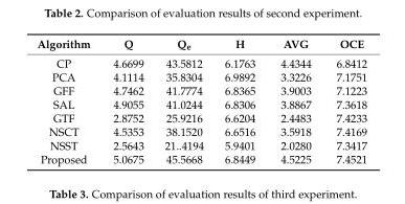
<table><thead><tr><td>Algorithm</td><td>Q</td><td>Q<sub>e</sub></td><td>H</td><td>AVG</td><td>OCE</td></tr></thead><tbody><tr><td>CP</td><td>4.6699</td><td>43.5812</td><td>6.1763</td><td>4.4344</td><td>6.8412</td></tr><tr><td>PCA</td><td>4.1114</td><td>35.8304</td><td>6.9892</td><td>3.3226</td><td>7.1751</td></tr><tr><td>GFF</td><td>4.7462</td><td>41.7774</td><td>6.8365</td><td>3.9003</td><td>7.1223</td></tr><tr><td>SAL</td><td>4.9055</td><td>41.0244</td><td>6.8306</td><td>3.8867</td><td>7.3618</td></tr><tr><td>GTF</td><td>2.8752</td><td>25.9216</td><td>6.6204</td><td>2.4483</td><td>7.4233</td></tr><tr><td>NSCT</td><td>4.5353</td><td>38.1520</td><td>6.6516</td><td>3.5918</td><td>7.4169</td></tr><tr><td>NSST</td><td>2.5643</td><td>21..4194</td><td>5.9401</td><td>2.0280</td><td>7.3417</td></tr><tr><td>Proposed</td><td>5.0675</td><td>45.5668</td><td>6.8449</td><td>4.5225</td><td>7.4521</td></tr></tbody></table>